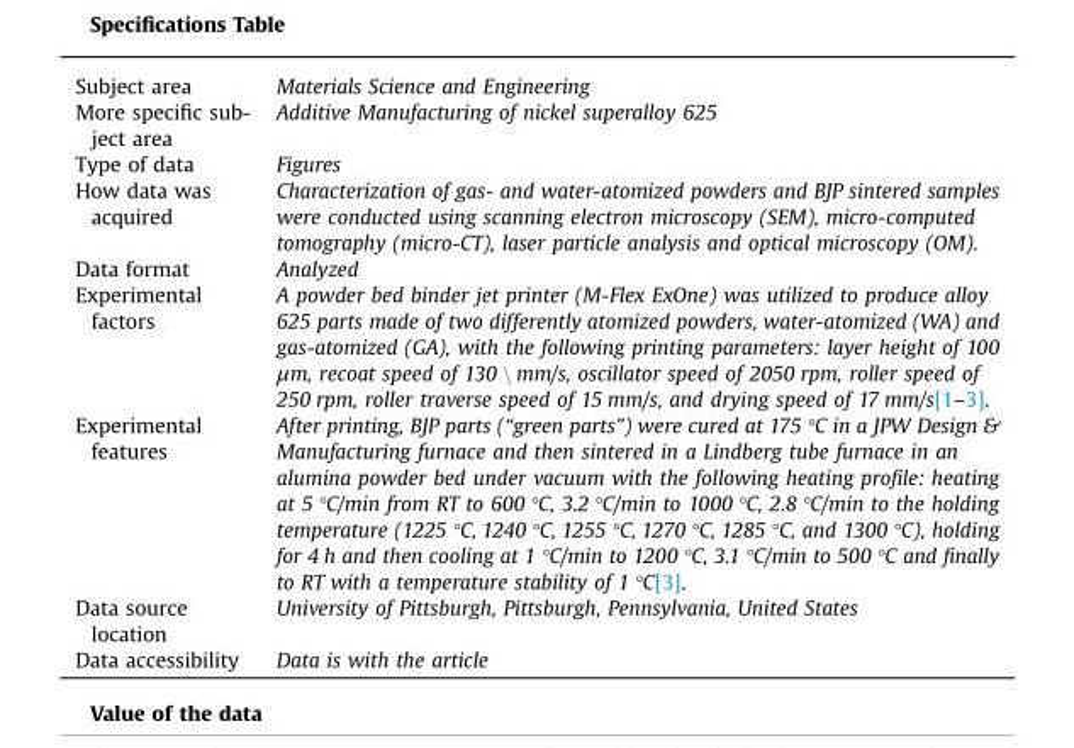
<table><tbody><tr><td>Subject area</td><td>Materials Science and Engineering</td></tr><tr><td>More specific sub- ject area</td><td>Additive Manufacturing of nickel superalloy 625</td></tr><tr><td>Type of data</td><td>Figures</td></tr><tr><td>How data was acquired</td><td>Characterization of gas- and water-atomized powders and BJP sintered samples were conducted using scanning electron microscopy (SEM), micro-computed tomography (micro-CT), laser particle analysis and optical microscopy (OM).</td></tr><tr><td>Data format</td><td>Analyzed</td></tr><tr><td>Experimental factors</td><td>A powder bed binder jet printer (M-Flex ExOne) was utilized to produce alloy 625 parts made of two differently atomized powders, water-atomized (WA) and gas-atomized (GA), with the following printing parameters: layer height of 100 μm, recoat speed of 130 \ mm/s, oscillator speed of 2050 rpm, roller speed of 250 rpm, roller traverse speed of 15 mm/s, and drying speed of 17 mm/s[1–3].</td></tr><tr><td>Experimental features</td><td>After printing, BJP parts (“green parts”) were cured at 175 °C in a JPW Design &amp; Manufacturing furnace and then sintered in a Lindberg tube furnace in an alumina powder bed under vacuum with the following heating profile: heating at 5 °C/min from RT to 600 °C, 3.2 °C/min to 1000 °C, 2.8 °C/min to the holding temperature (1225 °C, 1240 °C, 1255 °C, 1270 °C, 1285 °C, and 1300 °C), holding for 4 h and then cooling at 1 °C/min to 1200 °C, 3.1 °C/min to 500 °C and finally to RT with a temperature stability of 1 °C[3].</td></tr><tr><td>Data source location</td><td>University of Pittsburgh, Pittsburgh, Pennsylvania, United States</td></tr><tr><td>Data accessibility</td><td>Data is with the article</td></tr></tbody></table>